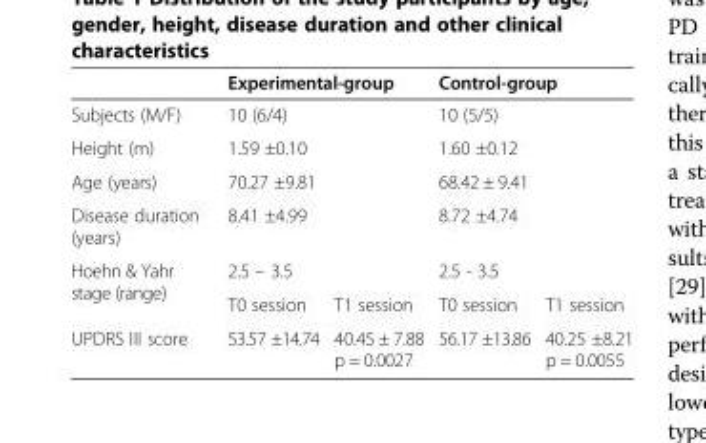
<table><thead><tr><td></td><td colspan="2">Experimental-group</td><td colspan="2">Control-group</td></tr></thead><tbody><tr><td>Subjects (M/F)</td><td colspan="2">10 (6/4)</td><td colspan="2">10 (5/5)</td></tr><tr><td>Height (m)</td><td colspan="2">1.59 ±0.10</td><td colspan="2">1.60 ±0.12</td></tr><tr><td>Age (years)</td><td colspan="2">70.27 ±9.81</td><td colspan="2">68.42 ± 9.41</td></tr><tr><td>Disease duration (years)</td><td colspan="2">8.41 ±4.99</td><td colspan="2">8.72 ±4.74</td></tr><tr><td rowspan="2">Hoehn &amp; Yahr stage (range)</td><td colspan="2">2.5 – 3.5</td><td colspan="2">2.5 - 3.5</td></tr><tr><td>T0 session</td><td>T1 session</td><td>T0 session</td><td>T1 session</td></tr><tr><td>UPDRS III score</td><td>53.57 ±14.74</td><td>40.45 ± 7.88 p = 0.0027</td><td>56.17 ±13.86</td><td>40.25 ±8.21 p = 0.0055</td></tr></tbody></table>